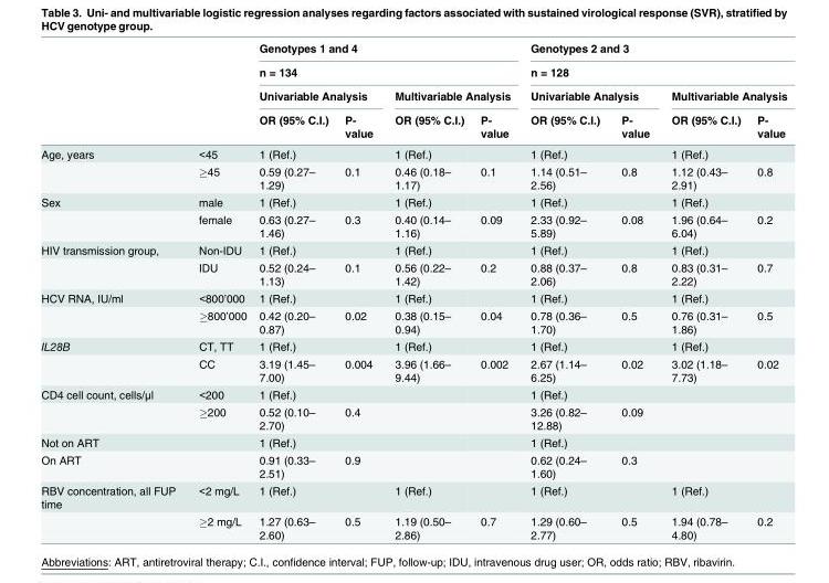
<table><thead><tr><td rowspan="4"></td><td rowspan="4"></td><td rowspan="2" colspan="4">Genotypes 1 and 4 n = 134</td><td rowspan="2" colspan="4">Genotypes 2 and 3 n = 128</td></tr><tr></tr><tr><td colspan="2">Univariable Analysis</td><td colspan="2">Multivariable Analysis</td><td colspan="2">Univariable Analysis</td><td colspan="2">Multivariable Analysis</td></tr><tr><td>OR (95% C.I.)</td><td>P- value</td><td>OR (95% C.I.)</td><td>P- value</td><td>OR (95% C.I.)</td><td>P- value</td><td>OR (95% C.I.)</td><td>P- value</td></tr></thead><tbody><tr><td rowspan="2">Age, years</td><td>&lt;45</td><td>1 (Ref.)</td><td></td><td>1 (Ref.)</td><td></td><td>1 (Ref.)</td><td></td><td>1 (Ref.)</td><td></td></tr><tr><td>≥45</td><td>0.59 (0.27– 1.29)</td><td>0.1</td><td>0.46 (0.18– 1.17)</td><td>0.1</td><td>1.14 (0.51– 2.56)</td><td>0.8</td><td>1.12 (0.43– 2.91)</td><td>0.8</td></tr><tr><td rowspan="2">Sex</td><td>male</td><td>1 (Ref.)</td><td></td><td>1 (Ref.)</td><td></td><td>1 (Ref.)</td><td></td><td>1 (Ref.)</td><td></td></tr><tr><td>female</td><td>0.63 (0.27– 1.46)</td><td>0.3</td><td>0.40 (0.14– 1.16)</td><td>0.09</td><td>2.33 (0.92– 5.89)</td><td>0.08</td><td>1.96 (0.64– 6.04)</td><td>0.2</td></tr><tr><td rowspan="2">HIV transmission group,</td><td>Non-IDU</td><td>1 (Ref.)</td><td></td><td>1 (Ref.)</td><td></td><td>1 (Ref.)</td><td></td><td>1 (Ref.)</td><td></td></tr><tr><td>IDU</td><td>0.52 (0.24– 1.13)</td><td>0.1</td><td>0.56 (0.22– 1.42)</td><td>0.2</td><td>0.88 (0.37– 2.06)</td><td>0.8</td><td>0.83 (0.31– 2.22)</td><td>0.7</td></tr><tr><td rowspan="2">HCV RNA, IU/ml</td><td>&lt;800’000</td><td>1 (Ref.)</td><td></td><td>1 (Ref.)</td><td></td><td>1 (Ref.)</td><td></td><td>1 (Ref.)</td><td></td></tr><tr><td>≥800’000</td><td>0.42 (0.20– 0.87)</td><td>0.02</td><td>0.38 (0.15– 0.94)</td><td>0.04</td><td>0.78 (0.36– 1.70)</td><td>0.5</td><td>0.76 (0.31– 1.86)</td><td>0.5</td></tr><tr><td rowspan="2">IL28B</td><td>CT, TT</td><td>1 (Ref.)</td><td></td><td>1 (Ref.)</td><td></td><td>1 (Ref.)</td><td></td><td>1 (Ref.)</td><td></td></tr><tr><td>CC</td><td>3.19 (1.45– 7.00)</td><td>0.004</td><td>3.96 (1.66– 9.44)</td><td>0.002</td><td>2.67 (1.14– 6.25)</td><td>0.02</td><td>3.02 (1.18– 7.73)</td><td>0.02</td></tr><tr><td rowspan="2">CD4 cell count, cells/μl</td><td>&lt;200</td><td>1 (Ref.)</td><td></td><td></td><td></td><td>1 (Ref.)</td><td></td><td></td><td></td></tr><tr><td>≥200</td><td>0.52 (0.10– 2.70)</td><td>0.4</td><td></td><td></td><td>3.26 (0.82– 12.88)</td><td>0.09</td><td></td><td></td></tr><tr><td>Not on ART</td><td></td><td>1 (Ref.)</td><td></td><td></td><td></td><td>1 (Ref.)</td><td></td><td></td><td></td></tr><tr><td>On ART</td><td></td><td>0.91 (0.33– 2.51)</td><td>0.9</td><td></td><td></td><td>0.62 (0.24– 1.60)</td><td>0.3</td><td></td><td></td></tr><tr><td rowspan="2">RBV concentration, all FUP time</td><td>&lt;2 mg/L</td><td>1 (Ref.)</td><td></td><td>1 (Ref.)</td><td></td><td>1 (Ref.)</td><td></td><td>1 (Ref.)</td><td></td></tr><tr><td>≥2 mg/L</td><td>1.27 (0.63– 2.60)</td><td>0.5</td><td>1.19 (0.50– 2.86)</td><td>0.7</td><td>1.29 (0.60– 2.77)</td><td>0.5</td><td>1.94 (0.78– 4.80)</td><td>0.2</td></tr></tbody></table>